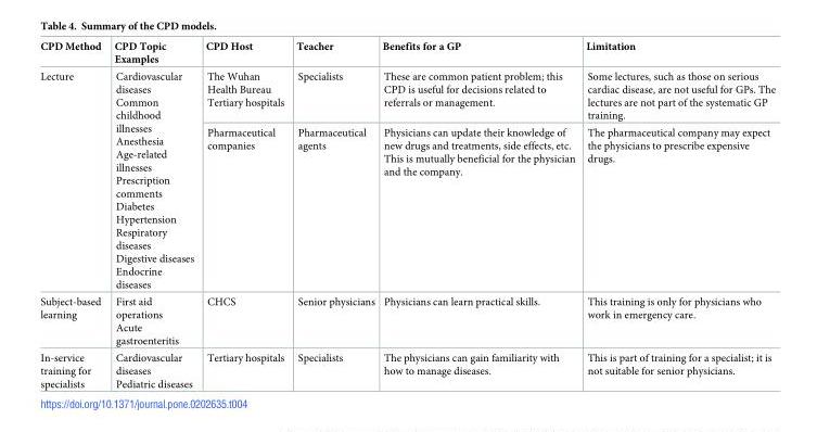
<table><thead><tr><td>CPD Method</td><td>CPD Topic Examples</td><td>CPD Host</td><td>Teacher</td><td>Benefits for a GP</td><td>Limitation</td></tr></thead><tbody><tr><td rowspan="2">Lecture</td><td rowspan="2">Cardiovascular diseases Common childhood illnesses Anesthesia Age-related illnesses Prescription comments Diabetes Hypertension Respiratory diseases Digestive diseases Endocrine diseases</td><td>The Wuhan Health Bureau Tertiary hospitals</td><td>Specialists</td><td>These are common patient problem; this CPD is useful for decisions related to referrals or management.</td><td>Some lectures, such as those on serious cardiac disease, are not useful for GPs. The lectures are not part of the systematic GP training.</td></tr><tr><td>Pharmaceutical companies</td><td>Pharmaceutical agents</td><td>Physicians can update their knowledge of new drugs and treatments, side effects, etc. This is mutually beneficial for the physician and the company.</td><td>The pharmaceutical company may expect the physicians to prescribe expensive drugs.</td></tr><tr><td>Subject-based learning</td><td>First aid operations Acute gastroenteritis</td><td>CHCS</td><td>Senior physicians</td><td>Physicians can learn practical skills.</td><td>This training is only for physicians who work in emergency care.</td></tr><tr><td>In-service training for specialists</td><td>Cardiovascular diseases Pediatric diseases</td><td>Tertiary hospitals</td><td>Specialists</td><td>The physicians can gain familiarity with how to manage diseases.</td><td>This is part of training for a specialist; it is not suitable for senior physicians.</td></tr></tbody></table>